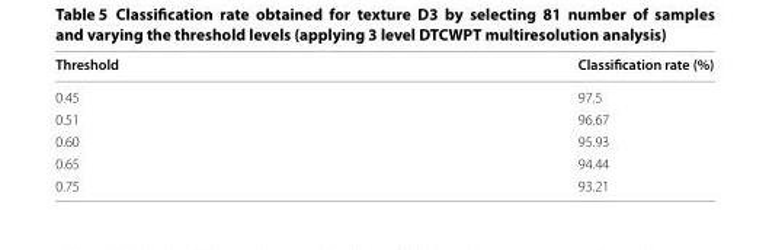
<table><thead><tr><td>Threshold</td><td>Classification rate (%)</td></tr></thead><tbody><tr><td>0.45</td><td>97.5</td></tr><tr><td>0.51</td><td>96.67</td></tr><tr><td>0.60</td><td>95.93</td></tr><tr><td>0.65</td><td>94.44</td></tr><tr><td>0.75</td><td>93.21</td></tr></tbody></table>